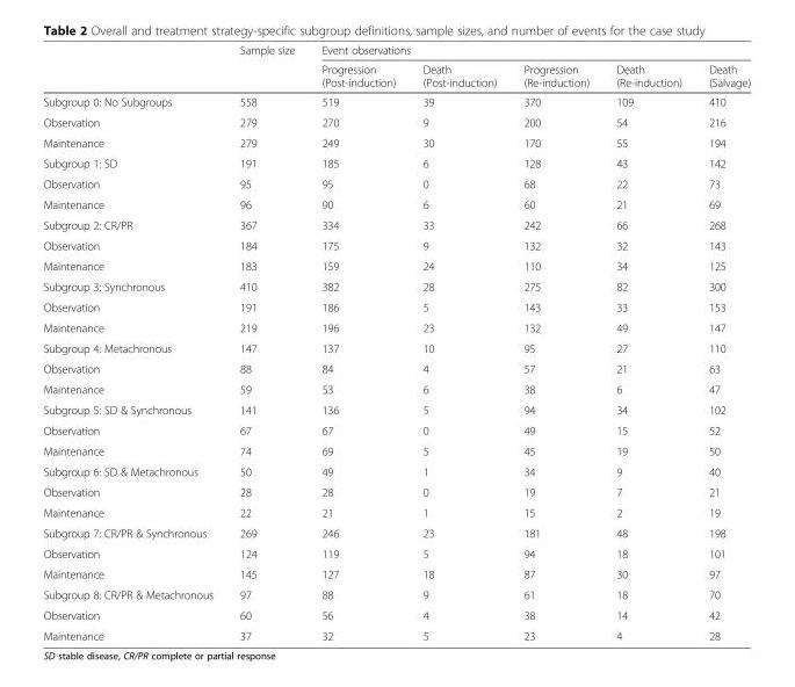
<table><thead><tr><td rowspan="2"></td><td rowspan="2">Sample size</td><td colspan="5">Event observations</td></tr><tr><td>Progression (Post-induction)</td><td>Death (Post-induction)</td><td>Progression (Re-induction)</td><td>Death (Re-induction)</td><td>Death (Salvage)</td></tr></thead><tbody><tr><td>Subgroup 0: No Subgroups</td><td>558</td><td>519</td><td>39</td><td>370</td><td>109</td><td>410</td></tr><tr><td>Observation</td><td>279</td><td>270</td><td>9</td><td>200</td><td>54</td><td>216</td></tr><tr><td>Maintenance</td><td>279</td><td>249</td><td>30</td><td>170</td><td>55</td><td>194</td></tr><tr><td>Subgroup 1: SD</td><td>191</td><td>185</td><td>6</td><td>128</td><td>43</td><td>142</td></tr><tr><td>Observation</td><td>95</td><td>95</td><td>0</td><td>68</td><td>22</td><td>73</td></tr><tr><td>Maintenance</td><td>96</td><td>90</td><td>6</td><td>60</td><td>21</td><td>69</td></tr><tr><td>Subgroup 2: CR/PR</td><td>367</td><td>334</td><td>33</td><td>242</td><td>66</td><td>268</td></tr><tr><td>Observation</td><td>184</td><td>175</td><td>9</td><td>132</td><td>32</td><td>143</td></tr><tr><td>Maintenance</td><td>183</td><td>159</td><td>24</td><td>110</td><td>34</td><td>125</td></tr><tr><td>Subgroup 3: Synchronous</td><td>410</td><td>382</td><td>28</td><td>275</td><td>82</td><td>300</td></tr><tr><td>Observation</td><td>191</td><td>186</td><td>5</td><td>143</td><td>33</td><td>153</td></tr><tr><td>Maintenance</td><td>219</td><td>196</td><td>23</td><td>132</td><td>49</td><td>147</td></tr><tr><td>Subgroup 4: Metachronous</td><td>147</td><td>137</td><td>10</td><td>95</td><td>27</td><td>110</td></tr><tr><td>Observation</td><td>88</td><td>84</td><td>4</td><td>57</td><td>21</td><td>63</td></tr><tr><td>Maintenance</td><td>59</td><td>53</td><td>6</td><td>38</td><td>6</td><td>47</td></tr><tr><td>Subgroup 5: SD &amp; Synchronous</td><td>141</td><td>136</td><td>5</td><td>94</td><td>34</td><td>102</td></tr><tr><td>Observation</td><td>67</td><td>67</td><td>0</td><td>49</td><td>15</td><td>52</td></tr><tr><td>Maintenance</td><td>74</td><td>69</td><td>5</td><td>45</td><td>19</td><td>50</td></tr><tr><td>Subgroup 6: SD &amp; Metachronous</td><td>50</td><td>49</td><td>1</td><td>34</td><td>9</td><td>40</td></tr><tr><td>Observation</td><td>28</td><td>28</td><td>0</td><td>19</td><td>7</td><td>21</td></tr><tr><td>Maintenance</td><td>22</td><td>21</td><td>1</td><td>15</td><td>2</td><td>19</td></tr><tr><td>Subgroup 7: CR/PR &amp; Synchronous</td><td>269</td><td>246</td><td>23</td><td>181</td><td>48</td><td>198</td></tr><tr><td>Observation</td><td>124</td><td>119</td><td>5</td><td>94</td><td>18</td><td>101</td></tr><tr><td>Maintenance</td><td>145</td><td>127</td><td>18</td><td>87</td><td>30</td><td>97</td></tr><tr><td>Subgroup 8: CR/PR &amp; Metachronous</td><td>97</td><td>88</td><td>9</td><td>61</td><td>18</td><td>70</td></tr><tr><td>Observation</td><td>60</td><td>56</td><td>4</td><td>38</td><td>14</td><td>42</td></tr><tr><td>Maintenance</td><td>37</td><td>32</td><td>5</td><td>23</td><td>4</td><td>28</td></tr></tbody></table>